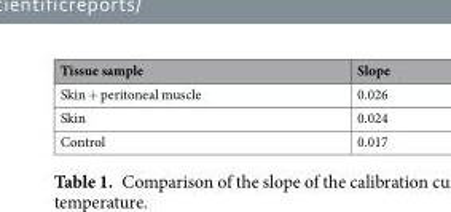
<table><thead><tr><td>Tissue sample</td><td>Slope</td></tr></thead><tbody><tr><td>Skin + peritoneal muscle</td><td>0.026</td></tr><tr><td>Skin</td><td>0.024</td></tr><tr><td>Control</td><td>0.017</td></tr></tbody></table>